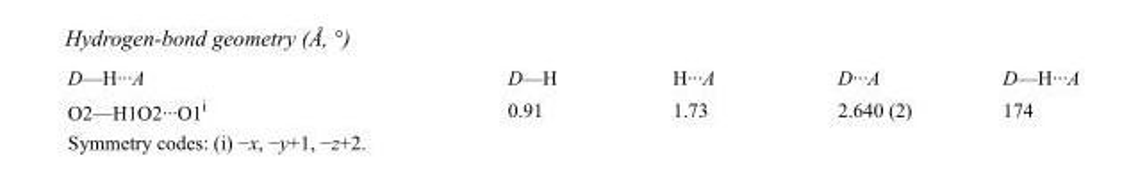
<table><tbody><tr><td>D—H···A</td><td>D—H</td><td>H···A</td><td>D···A</td><td>D—H···A</td></tr><tr><td>O2—H1O2···O1<sup>i</sup></td><td>0.91</td><td>1.73</td><td>2.640 (2)</td><td>174</td></tr></tbody></table>